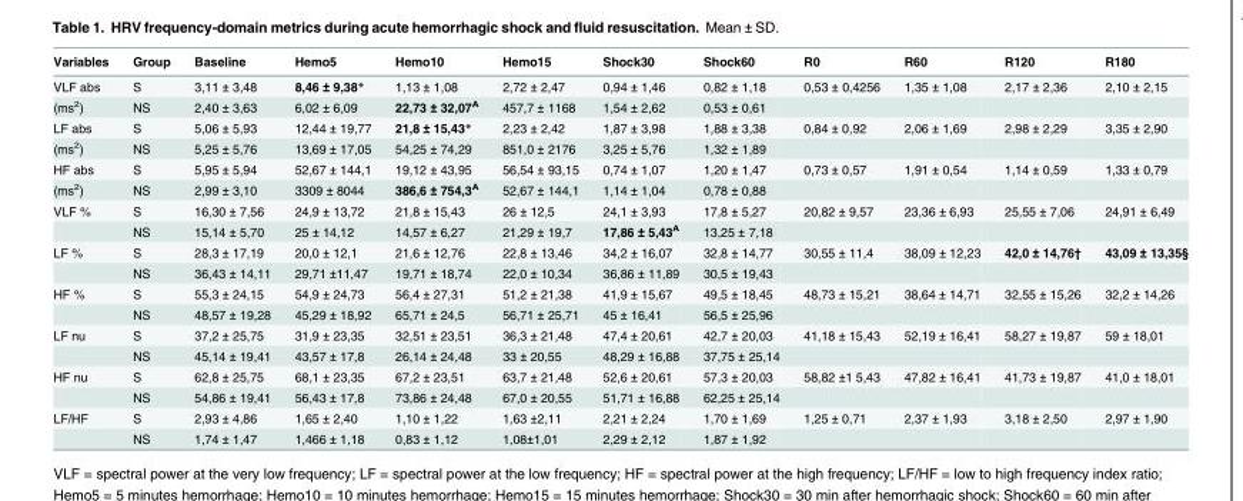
<table><thead><tr><td>Variables</td><td>Group</td><td>Baseline</td><td>Hemo5</td><td>Hemo10</td><td>Hemo15</td><td>Shock30</td><td>Shock60</td><td>R0</td><td>R60</td><td>R120</td><td>R180</td></tr></thead><tbody><tr><td>VLF abs</td><td>S</td><td>3,11 ± 3,48</td><td>8,46 ± 9,38*</td><td>1,13 ± 1,08</td><td>2,72 ± 2,47</td><td>0,94 ± 1,46</td><td>0,82 ± 1,18</td><td>0,53 ± 0,4256</td><td>1,35 ± 1,08</td><td>2,17 ± 2,36</td><td>2,10 ± 2,15</td></tr><tr><td>(ms<sup>2</sup>)</td><td>NS</td><td>2,40 ± 3,63</td><td>6,02 ± 6,09</td><td>22,73 ± 32,07<sup>A</sup></td><td>457,7 ± 1168</td><td>1,54 ± 2,62</td><td>0,53 ± 0,61</td><td></td><td></td><td></td><td></td></tr><tr><td>LF abs</td><td>S</td><td>5,06 ± 5,93</td><td>12,44 ± 19,77</td><td>21,8 ± 15,43*</td><td>2,23 ± 2,42</td><td>1,87 ± 3,98</td><td>1,88 ± 3,38</td><td>0,84 ± 0,92</td><td>2,06 ± 1,69</td><td>2,98 ± 2,29</td><td>3,35 ± 2,90</td></tr><tr><td>(ms<sup>2</sup>)</td><td>NS</td><td>5,25 ± 5,76</td><td>13,69 ± 17,05</td><td>54,25 ± 74,29</td><td>851,0 ± 2176</td><td>3,25 ± 5,76</td><td>1,32 ± 1,89</td><td></td><td></td><td></td><td></td></tr><tr><td>HF abs</td><td>S</td><td>5,95 ± 5,94</td><td>52,67 ± 144,1</td><td>19,12 ± 43,95</td><td>56,54 ± 93,15</td><td>0,74 ± 1,07</td><td>1,20 ± 1,47</td><td>0,73 ± 0,57</td><td>1,91 ± 0,54</td><td>1,14 ± 0,59</td><td>1,33 ± 0,79</td></tr><tr><td>(ms<sup>2</sup>)</td><td>NS</td><td>2,99 ± 3,10</td><td>3309 ± 8044</td><td>386,6 ± 754,3<sup>A</sup></td><td>52,67 ± 144,1</td><td>1,14 ± 1,04</td><td>0,78 ± 0,88</td><td></td><td></td><td></td><td></td></tr><tr><td rowspan="2">VLF %</td><td>S</td><td>16,30 ± 7,56</td><td>24,9 ± 13,72</td><td>21,8 ± 15,43</td><td>26 ± 12,5</td><td>24,1 ± 3,93</td><td>17,8 ± 5,27</td><td>20,82 ± 9,57</td><td>23,36 ± 6,93</td><td>25,55 ± 7,06</td><td>24,91 ± 6,49</td></tr><tr><td>NS</td><td>15,14 ± 5,70</td><td>25 ± 14,12</td><td>14,57 ± 6,27</td><td>21,29 ± 19,7</td><td>17,86 ± 5,43<sup>A</sup></td><td>13,25 ± 7,18</td><td></td><td></td><td></td><td></td></tr><tr><td rowspan="2">LF %</td><td>S</td><td>28,3 ± 17,19</td><td>20,0 ± 12,1</td><td>21,6 ± 12,76</td><td>22,8 ± 13,46</td><td>34,2 ± 16,07</td><td>32,8 ± 14,77</td><td>30,55 ± 11,4</td><td>38,09 ± 12,23</td><td>42,0 ± 14,76†</td><td>43,09 ± 13,35§</td></tr><tr><td>NS</td><td>36,43 ± 14,11</td><td>29,71 ±11,47</td><td>19,71 ± 18,74</td><td>22,0 ± 10,34</td><td>36,86 ± 11,89</td><td>30,5 ± 19,43</td><td></td><td></td><td></td><td></td></tr><tr><td rowspan="2">HF %</td><td>S</td><td>55,3 ± 24,15</td><td>54,9 ± 24,73</td><td>56,4 ± 27,31</td><td>51,2 ± 21,38</td><td>41,9 ± 15,67</td><td>49,5 ± 18,45</td><td>48,73 ± 15,21</td><td>38,64 ± 14,71</td><td>32,55 ± 15,26</td><td>32,2 ± 14,26</td></tr><tr><td>NS</td><td>48,57 ± 19,28</td><td>45,29 ± 18,92</td><td>65,71 ± 24,5</td><td>56,71 ± 25,71</td><td>45 ± 16,41</td><td>56,5 ± 25,96</td><td></td><td></td><td></td><td></td></tr><tr><td rowspan="2">LF nu</td><td>S</td><td>37,2 ± 25,75</td><td>31,9 ± 23,35</td><td>32,51 ± 23,51</td><td>36,3 ± 21,48</td><td>47,4 ± 20,61</td><td>42,7 ± 20,03</td><td>41,18 ± 15,43</td><td>52,19 ± 16,41</td><td>58,27 ± 19,87</td><td>59 ± 18,01</td></tr><tr><td>NS</td><td>45,14 ± 19,41</td><td>43,57 ± 17,8</td><td>26,14 ± 24,48</td><td>33 ± 20,55</td><td>48,29 ± 16,88</td><td>37,75 ± 25,14</td><td></td><td></td><td></td><td></td></tr><tr><td rowspan="2">HF nu</td><td>S</td><td>62,8 ± 25,75</td><td>68,1 ± 23,35</td><td>67,2 ± 23,51</td><td>63,7 ± 21,48</td><td>52,6 ± 20,61</td><td>57,3 ± 20,03</td><td>58,82 ±1 5,43</td><td>47,82 ± 16,41</td><td>41,73 ± 19,87</td><td>41,0 ± 18,01</td></tr><tr><td>NS</td><td>54,86 ± 19,41</td><td>56,43 ± 17,8</td><td>73,86 ± 24,48</td><td>67,0 ± 20,55</td><td>51,71 ± 16,88</td><td>62,25 ± 25,14</td><td></td><td></td><td></td><td></td></tr><tr><td rowspan="2">LF/HF</td><td>S</td><td>2,93 ± 4,86</td><td>1,65 ± 2,40</td><td>1,10 ± 1,22</td><td>1,63 ±2,11</td><td>2,21 ± 2,24</td><td>1,70 ± 1,69</td><td>1,25 ± 0,71</td><td>2,37 ± 1,93</td><td>3,18 ± 2,50</td><td>2,97 ± 1,90</td></tr><tr><td>NS</td><td>1,74 ± 1,47</td><td>1,466 ± 1,18</td><td>0,83 ± 1,12</td><td>1,08±1,01</td><td>2,29 ± 2,12</td><td>1,87 ± 1,92</td><td></td><td></td><td></td><td></td></tr></tbody></table>